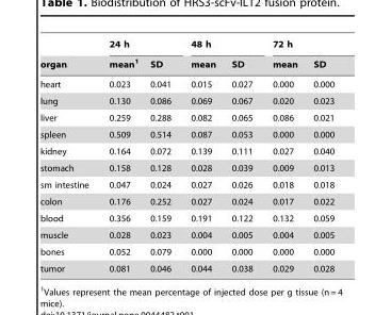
<table><thead><tr><td rowspan="2">organ</td><td colspan="2">24 h</td><td colspan="2">48 h</td><td colspan="2">72 h</td></tr><tr><td>mean<sup>1</sup></td><td>SD</td><td>mean</td><td>SD</td><td>mean</td><td>SD</td></tr></thead><tbody><tr><td>heart</td><td>0.023</td><td>0.041</td><td>0.015</td><td>0.027</td><td>0.000</td><td>0.000</td></tr><tr><td>lung</td><td>0.130</td><td>0.086</td><td>0.069</td><td>0.067</td><td>0.020</td><td>0.023</td></tr><tr><td>liver</td><td>0.259</td><td>0.288</td><td>0.082</td><td>0.065</td><td>0.086</td><td>0.021</td></tr><tr><td>spleen</td><td>0.509</td><td>0.514</td><td>0.087</td><td>0.053</td><td>0.000</td><td>0.000</td></tr><tr><td>kidney</td><td>0.164</td><td>0.072</td><td>0.139</td><td>0.111</td><td>0.027</td><td>0.040</td></tr><tr><td>stomach</td><td>0.158</td><td>0.128</td><td>0.028</td><td>0.039</td><td>0.009</td><td>0.013</td></tr><tr><td>sm intestine</td><td>0.047</td><td>0.024</td><td>0.027</td><td>0.026</td><td>0.018</td><td>0.018</td></tr><tr><td>colon</td><td>0.176</td><td>0.252</td><td>0.027</td><td>0.024</td><td>0.017</td><td>0.022</td></tr><tr><td>blood</td><td>0.356</td><td>0.159</td><td>0.191</td><td>0.122</td><td>0.132</td><td>0.059</td></tr><tr><td>muscle</td><td>0.028</td><td>0.023</td><td>0.004</td><td>0.005</td><td>0.004</td><td>0.005</td></tr><tr><td>bones</td><td>0.052</td><td>0.079</td><td>0.000</td><td>0.000</td><td>0.000</td><td>0.000</td></tr><tr><td>tumor</td><td>0.081</td><td>0.046</td><td>0.044</td><td>0.038</td><td>0.029</td><td>0.028</td></tr></tbody></table>